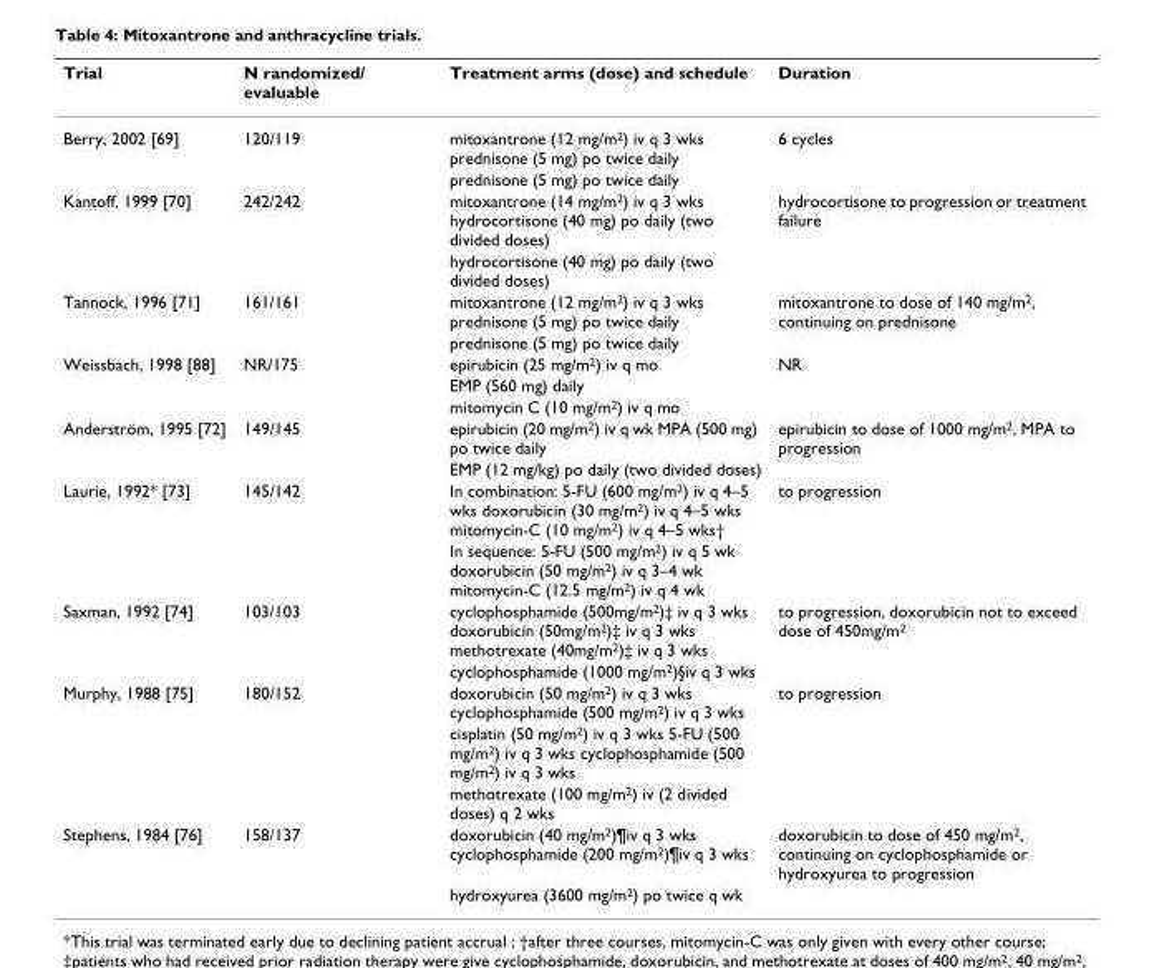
<table><thead><tr><td>Trial</td><td>N randomized/ evaluable</td><td>Treatment arms (dose) and schedule</td><td>Duration</td></tr></thead><tbody><tr><td rowspan="2">Berry, 2002 [69]</td><td>120/119</td><td>mitoxantrone (12 mg/m2) iv q 3 wks prednisone (5 mg) po twice daily</td><td>6 cycles</td></tr><tr><td></td><td>prednisone (5 mg) po twice daily</td><td></td></tr><tr><td rowspan="2">Kantoff, 1999 [70]</td><td>242/242</td><td>mitoxantrone (14 mg/m2) iv q 3 wks hydrocortisone (40 mg) po daily (two divided doses)</td><td>hydrocortisone to progression or treatment failure</td></tr><tr><td></td><td>hydrocortisone (40 mg) po daily (two divided doses)</td><td></td></tr><tr><td rowspan="2">Tannock, 1996 [71]</td><td>161/161</td><td>mitoxantrone (12 mg/m2) iv q 3 wks prednisone (5 mg) po twice daily</td><td>mitoxantrone to dose of 140 mg/m2, continuing on prednisone</td></tr><tr><td></td><td>prednisone (5 mg) po twice daily</td><td></td></tr><tr><td rowspan="3">Weissbach, 1998 [88]</td><td>NR/175</td><td>epirubicin (25 mg/m2) iv q mo</td><td>NR</td></tr><tr><td></td><td>EMP (560 mg) daily</td><td></td></tr><tr><td></td><td>mitomycin C (10 mg/m2) iv q mo</td><td></td></tr><tr><td rowspan="2">Anderström, 1995 [72]</td><td>149/145</td><td>epirubicin (20 mg/m2) iv q wk MPA (500 mg) po twice daily</td><td>epirubicin to dose of 1000 mg/m2, MPA to progression</td></tr><tr><td></td><td>EMP (12 mg/kg) po daily (two divided doses)</td><td></td></tr><tr><td rowspan="2">Laurie, 1992* [73]</td><td>145/142</td><td>In combination: 5-FU (600 mg/m2) iv q 4–5 wks doxorubicin (30 mg/m2) iv q 4–5 wks mitomycin-C (10 mg/m2) iv q 4–5 wks†</td><td>to progression</td></tr><tr><td></td><td>In sequence: 5-FU (500 mg/m2) iv q 5 wk doxorubicin (50 mg/m2) iv q 3–4 wk mitomycin-C (12.5 mg/m2) iv q 4 wk</td><td></td></tr><tr><td rowspan="2">Saxman, 1992 [74]</td><td>103/103</td><td>cyclophosphamide (500mg/m2)‡ iv q 3 wks doxorubicin (50mg/m2)‡ iv q 3 wks methotrexate (40mg/m2)‡ iv q 3 wks</td><td>to progression, doxorubicin not to exceed dose of 450mg/m2</td></tr><tr><td></td><td>cyclophosphamide (1000 mg/m2)§iv q 3 wks</td><td></td></tr><tr><td rowspan="3">Murphy, 1988 [75]</td><td>180/152</td><td>doxorubicin (50 mg/m2) iv q 3 wks cyclophosphamide (500 mg/m2) iv q 3 wks</td><td>to progression</td></tr><tr><td></td><td>cisplatin (50 mg/m2) iv q 3 wks 5-FU (500 mg/m2) iv q 3 wks cyclophosphamide (500 mg/m2) iv q 3 wks</td><td></td></tr><tr><td></td><td>methotrexate (100 mg/m2) iv (2 divided doses) q 2 wks</td><td></td></tr><tr><td rowspan="2">Stephens, 1984 [76]</td><td>158/137</td><td>doxorubicin (40 mg/m2)¶iv q 3 wks cyclophosphamide (200 mg/m2)¶iv q 3 wks</td><td>doxorubicin to dose of 450 mg/m2, continuing on cyclophosphamide or hydroxyurea to progression</td></tr><tr><td></td><td>hydroxyurea (3600 mg/m2) po twice q wk</td><td></td></tr></tbody></table>